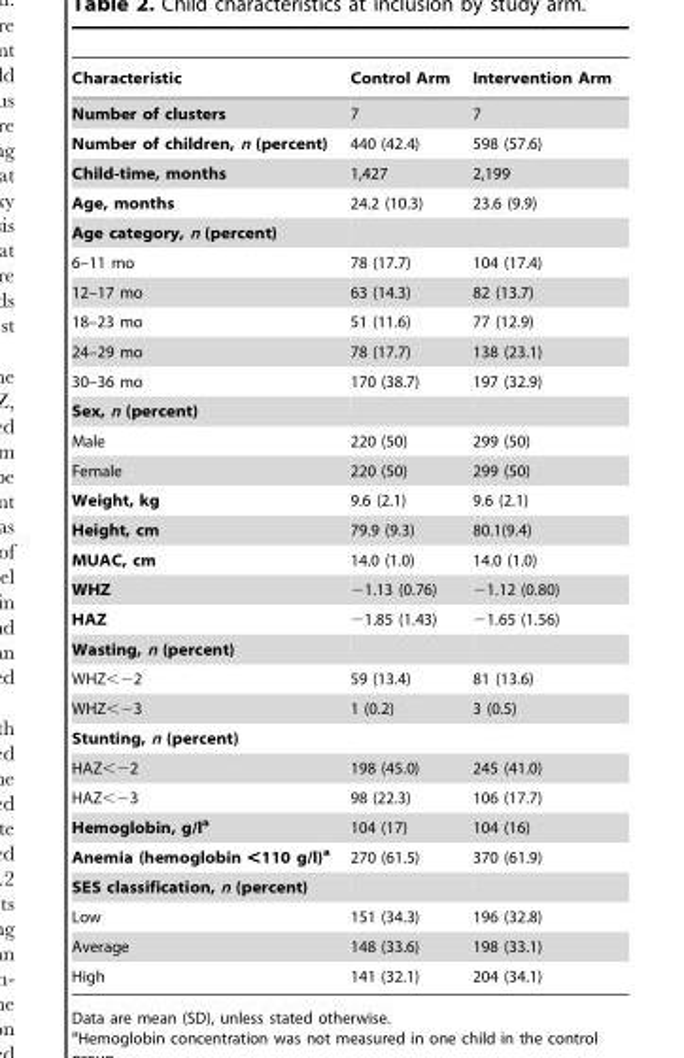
<table><thead><tr><td>Characteristic</td><td>Control Arm</td><td>Intervention Arm</td></tr></thead><tbody><tr><td>Number of clusters</td><td>7</td><td>7</td></tr><tr><td>Number of children, n (percent)</td><td>440 (42.4)</td><td>598 (57.6)</td></tr><tr><td>Child-time, months</td><td>1,427</td><td>2,199</td></tr><tr><td>Age, months</td><td>24.2 (10.3)</td><td>23.6 (9.9)</td></tr><tr><td colspan="3">Age category, n (percent)</td></tr><tr><td>6–11 mo</td><td>78 (17.7)</td><td>104 (17.4)</td></tr><tr><td>12–17 mo</td><td>63 (14.3)</td><td>82 (13.7)</td></tr><tr><td>18–23 mo</td><td>51 (11.6)</td><td>77 (12.9)</td></tr><tr><td>24–29 mo</td><td>78 (17.7)</td><td>138 (23.1)</td></tr><tr><td>30–36 mo</td><td>170 (38.7)</td><td>197 (32.9)</td></tr><tr><td colspan="3">Sex, n (percent)</td></tr><tr><td>Male</td><td>220 (50)</td><td>299 (50)</td></tr><tr><td>Female</td><td>220 (50)</td><td>299 (50)</td></tr><tr><td>Weight, kg</td><td>9.6 (2.1)</td><td>9.6 (2.1)</td></tr><tr><td>Height, cm</td><td>79.9 (9.3)</td><td>80.1(9.4)</td></tr><tr><td>MUAC, cm</td><td>14.0 (1.0)</td><td>14.0 (1.0)</td></tr><tr><td>WHZ</td><td>−1.13 (0.76)</td><td>−1.12 (0.80)</td></tr><tr><td>HAZ</td><td>−1.85 (1.43)</td><td>−1.65 (1.56)</td></tr><tr><td colspan="3">Wasting, n (percent)</td></tr><tr><td>WHZ&lt;−2</td><td>59 (13.4)</td><td>81 (13.6)</td></tr><tr><td>WHZ&lt;−3</td><td>1 (0.2)</td><td>3 (0.5)</td></tr><tr><td colspan="3">Stunting, n (percent)</td></tr><tr><td>HAZ&lt;−2</td><td>198 (45.0)</td><td>245 (41.0)</td></tr><tr><td>HAZ&lt;−3</td><td>98 (22.3)</td><td>106 (17.7)</td></tr><tr><td>Hemoglobin, g/la</td><td>104 (17)</td><td>104 (16)</td></tr><tr><td>Anemia (hemoglobin &lt;110 g/l)a</td><td>270 (61.5)</td><td>370 (61.9)</td></tr><tr><td colspan="3">SES classification, n (percent)</td></tr><tr><td>Low</td><td>151 (34.3)</td><td>196 (32.8)</td></tr><tr><td>Average</td><td>148 (33.6)</td><td>198 (33.1)</td></tr><tr><td>High</td><td>141 (32.1)</td><td>204 (34.1)</td></tr></tbody></table>